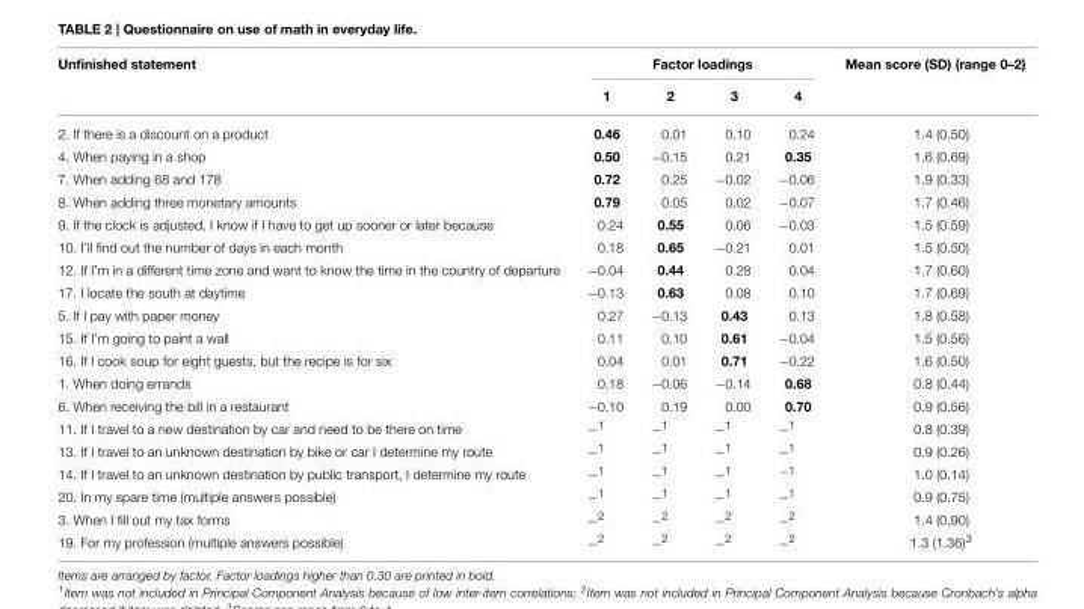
<table><thead><tr><td rowspan="2">Unfinished statement</td><td colspan="4">Factor loadings</td><td rowspan="2">Mean score (SD) (range 0–2)</td></tr><tr><td>1</td><td>2</td><td>3</td><td>4</td></tr></thead><tbody><tr><td>2. If there is a discount on a product</td><td>0.46</td><td>0.01</td><td>0.10</td><td>0.24</td><td>1.4 (0.50)</td></tr><tr><td>4. When paying in a shop</td><td>0.50</td><td>−0.15</td><td>0.21</td><td>0.35</td><td>1.6 (0.69)</td></tr><tr><td>7. When adding 68 and 178</td><td>0.72</td><td>0.25</td><td>−0.02</td><td>−0.06</td><td>1.9 (0.33)</td></tr><tr><td>8. When adding three monetary amounts</td><td>0.79</td><td>0.05</td><td>0.02</td><td>−0.07</td><td>1.7 (0.46)</td></tr><tr><td>9. If the clock is adjusted, I know if I have to get up sooner or later because</td><td>0.24</td><td>0.55</td><td>0.06</td><td>−0.03</td><td>1.5 (0.59)</td></tr><tr><td>10. I’ll find out the number of days in each month</td><td>0.18</td><td>0.65</td><td>−0.21</td><td>0.01</td><td>1.5 (0.50)</td></tr><tr><td>12. If I’m in a different time zone and want to know the time in the country of departure</td><td>−0.04</td><td>0.44</td><td>0.28</td><td>0.04</td><td>1.7 (0.60)</td></tr><tr><td>17. I locate the south at daytime</td><td>−0.13</td><td>0.63</td><td>0.08</td><td>0.10</td><td>1.7 (0.69)</td></tr><tr><td>5. If I pay with paper money</td><td>0.27</td><td>−0.13</td><td>0.43</td><td>0.13</td><td>1.8 (0.58)</td></tr><tr><td>15. If I’m going to paint a wall</td><td>0.11</td><td>0.10</td><td>0.61</td><td>−0.04</td><td>1.5 (0.56)</td></tr><tr><td>16. If I cook soup for eight guests, but the recipe is for six</td><td>0.04</td><td>0.01</td><td>0.71</td><td>−0.22</td><td>1.6 (0.50)</td></tr><tr><td>1. When doing errands</td><td>0.18</td><td>−0.06</td><td>−0.14</td><td>0.68</td><td>0.8 (0.44)</td></tr><tr><td>6. When receiving the bill in a restaurant</td><td>−0.10</td><td>0.19</td><td>0.00</td><td>0.70</td><td>0.9 (0.56)</td></tr><tr><td>11. If I travel to a new destination by car and need to be there on time</td><td>−<sup>1</sup></td><td>−<sup>1</sup></td><td>−<sup>1</sup></td><td>−<sup>1</sup></td><td>0.8 (0.39)</td></tr><tr><td>13. If I travel to an unknown destination by bike or car I determine my route</td><td>−<sup>1</sup></td><td>−<sup>1</sup></td><td>−<sup>1</sup></td><td>−<sup>1</sup></td><td>0.9 (0.26)</td></tr><tr><td>14. If I travel to an unknown destination by public transport, I determine my route</td><td>−<sup>1</sup></td><td>−<sup>1</sup></td><td>−<sup>1</sup></td><td>−<sup>1</sup></td><td>1.0 (0.14)</td></tr><tr><td>20. In my spare time (multiple answers possible)</td><td>−<sup>1</sup></td><td>−<sup>1</sup></td><td>−<sup>1</sup></td><td>−<sup>1</sup></td><td>0.9 (0.75)</td></tr><tr><td>3. When I fill out my tax forms</td><td>−<sup>2</sup></td><td>−<sup>2</sup></td><td>−<sup>2</sup></td><td>−<sup>2</sup></td><td>1.4 (0.90)</td></tr><tr><td>19. For my profession (multiple answers possible)</td><td>−<sup>2</sup></td><td>−<sup>2</sup></td><td>−<sup>2</sup></td><td>−<sup>2</sup></td><td>1.3 (1.36)<sup>3</sup></td></tr></tbody></table>